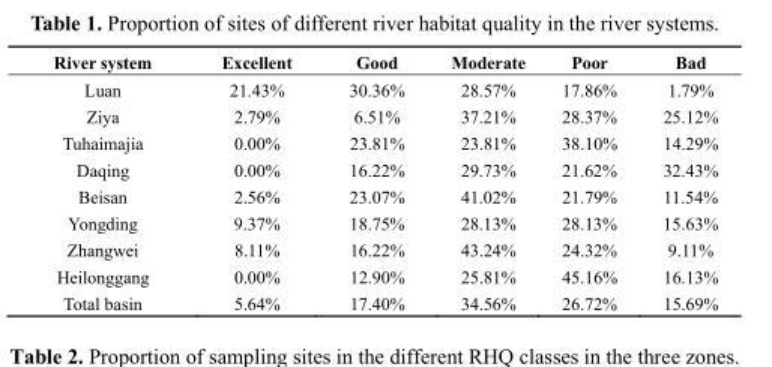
<table><thead><tr><td>River system</td><td>Excellent</td><td>Good</td><td>Moderate</td><td>Poor</td><td>Bad</td></tr></thead><tbody><tr><td>Luan</td><td>21.43%</td><td>30.36%</td><td>28.57%</td><td>17.86%</td><td>1.79%</td></tr><tr><td>Ziya</td><td>2.79%</td><td>6.51%</td><td>37.21%</td><td>28.37%</td><td>25.12%</td></tr><tr><td>Tuhaimajia</td><td>0.00%</td><td>23.81%</td><td>23.81%</td><td>38.10%</td><td>14.29%</td></tr><tr><td>Daqing</td><td>0.00%</td><td>16.22%</td><td>29.73%</td><td>21.62%</td><td>32.43%</td></tr><tr><td>Beisan</td><td>2.56%</td><td>23.07%</td><td>41.02%</td><td>21.79%</td><td>11.54%</td></tr><tr><td>Yongding</td><td>9.37%</td><td>18.75%</td><td>28.13%</td><td>28.13%</td><td>15.63%</td></tr><tr><td>Zhangwei</td><td>8.11%</td><td>16.22%</td><td>43.24%</td><td>24.32%</td><td>9.11%</td></tr><tr><td>Heilonggang</td><td>0.00%</td><td>12.90%</td><td>25.81%</td><td>45.16%</td><td>16.13%</td></tr><tr><td>Total basin</td><td>5.64%</td><td>17.40%</td><td>34.56%</td><td>26.72%</td><td>15.69%</td></tr></tbody></table>